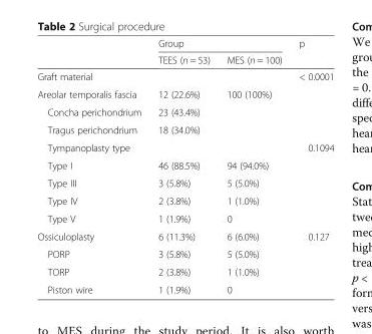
<table><thead><tr><td rowspan="2"></td><td colspan="2">Group</td><td rowspan="2">p</td></tr><tr><td>TEES (n = 53)</td><td>MES (n = 100)</td></tr></thead><tbody><tr><td>Graft material</td><td></td><td></td><td>&lt; 0.0001</td></tr><tr><td>Areolar temporalis fascia</td><td>12 (22.6%)</td><td>100 (100%)</td><td></td></tr><tr><td>Concha perichondrium</td><td>23 (43.4%)</td><td></td><td></td></tr><tr><td>Tragus perichondrium</td><td>18 (34.0%)</td><td></td><td></td></tr><tr><td>Tympanoplasty type</td><td></td><td></td><td>0.1094</td></tr><tr><td>Type I</td><td>46 (88.5%)</td><td>94 (94.0%)</td><td></td></tr><tr><td>Type III</td><td>3 (5.8%)</td><td>5 (5.0%)</td><td></td></tr><tr><td>Type IV</td><td>2 (3.8%)</td><td>1 (1.0%)</td><td></td></tr><tr><td>Type V</td><td>1 (1.9%)</td><td>0</td><td></td></tr><tr><td>Ossiculoplasty</td><td>6 (11.3%)</td><td>6 (6.0%)</td><td>0.127</td></tr><tr><td>PORP</td><td>3 (5.8%)</td><td>5 (5.0%)</td><td></td></tr><tr><td>TORP</td><td>2 (3.8%)</td><td>1 (1.0%)</td><td></td></tr><tr><td>Piston wire</td><td>1 (1.9%)</td><td>0</td><td></td></tr></tbody></table>